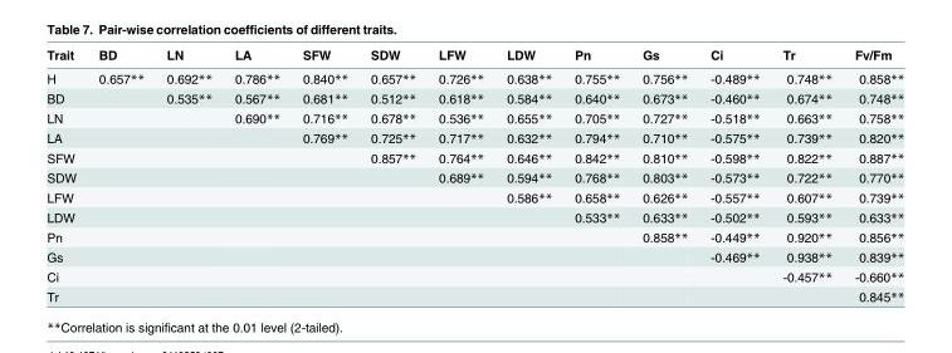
<table><thead><tr><td>Trait</td><td>BD</td><td>LN</td><td>LA</td><td>SFW</td><td>SDW</td><td>LFW</td><td>LDW</td><td>Pn</td><td>Gs</td><td>Ci</td><td>Tr</td><td>Fv/Fm</td></tr></thead><tbody><tr><td>H</td><td>0.657**</td><td>0.692**</td><td>0.786**</td><td>0.840**</td><td>0.657**</td><td>0.726**</td><td>0.638**</td><td>0.755**</td><td>0.756**</td><td>-0.489**</td><td>0.748**</td><td>0.858**</td></tr><tr><td>BD</td><td></td><td>0.535**</td><td>0.567**</td><td>0.681**</td><td>0.512**</td><td>0.618**</td><td>0.584**</td><td>0.640**</td><td>0.673**</td><td>-0.460**</td><td>0.674**</td><td>0.748**</td></tr><tr><td>LN</td><td></td><td></td><td>0.690**</td><td>0.716**</td><td>0.678**</td><td>0.536**</td><td>0.655**</td><td>0.705**</td><td>0.727**</td><td>-0.518**</td><td>0.663**</td><td>0.758**</td></tr><tr><td>LA</td><td></td><td></td><td></td><td>0.769**</td><td>0.725**</td><td>0.717**</td><td>0.632**</td><td>0.794**</td><td>0.710**</td><td>-0.575**</td><td>0.739**</td><td>0.820**</td></tr><tr><td>SFW</td><td></td><td></td><td></td><td></td><td>0.857**</td><td>0.764**</td><td>0.646**</td><td>0.842**</td><td>0.810**</td><td>-0.598**</td><td>0.822**</td><td>0.887**</td></tr><tr><td>SDW</td><td></td><td></td><td></td><td></td><td></td><td>0.689**</td><td>0.594**</td><td>0.768**</td><td>0.803**</td><td>-0.573**</td><td>0.722**</td><td>0.770**</td></tr><tr><td>LFW</td><td></td><td></td><td></td><td></td><td></td><td></td><td>0.586**</td><td>0.658**</td><td>0.626**</td><td>-0.557**</td><td>0.607**</td><td>0.739**</td></tr><tr><td>LDW</td><td></td><td></td><td></td><td></td><td></td><td></td><td></td><td>0.533**</td><td>0.633**</td><td>-0.502**</td><td>0.593**</td><td>0.633**</td></tr><tr><td>Pn</td><td></td><td></td><td></td><td></td><td></td><td></td><td></td><td></td><td>0.858**</td><td>-0.449**</td><td>0.920**</td><td>0.856**</td></tr><tr><td>Gs</td><td></td><td></td><td></td><td></td><td></td><td></td><td></td><td></td><td></td><td>-0.469**</td><td>0.938**</td><td>0.839**</td></tr><tr><td>Ci</td><td></td><td></td><td></td><td></td><td></td><td></td><td></td><td></td><td></td><td></td><td>-0.457**</td><td>-0.660**</td></tr><tr><td>Tr</td><td></td><td></td><td></td><td></td><td></td><td></td><td></td><td></td><td></td><td></td><td></td><td>0.845**</td></tr></tbody></table>